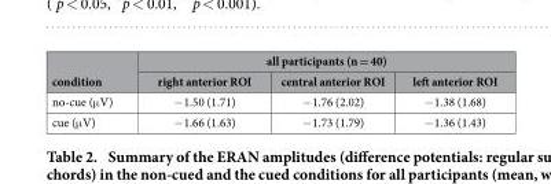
<table><thead><tr><td rowspan="2">condition</td><td colspan="3">all participants (n = 40)</td></tr><tr><td>right anterior ROI</td><td>central anterior ROI</td><td>left anterior ROI</td></tr></thead><tbody><tr><td>no-cue (μ V)</td><td>− 1.50 (1.71)</td><td>− 1.76 (2.02)</td><td>− 1.38 (1.68)</td></tr><tr><td>cue (μ V)</td><td>− 1.66 (1.63)</td><td>− 1.73 (1.79)</td><td>− 1.36 (1.43)</td></tr></tbody></table>